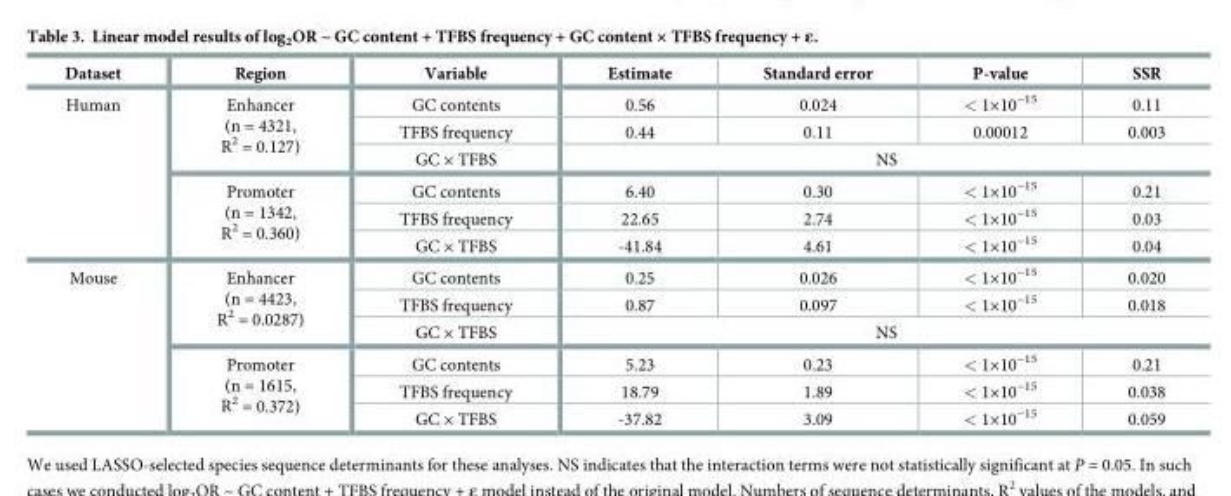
<table><thead><tr><td>Dataset</td><td>Region</td><td>Variable</td><td>Estimate</td><td>Standard error</td><td>P-value</td><td>SSR</td></tr></thead><tbody><tr><td rowspan="6">Human</td><td rowspan="3">Enhancer (n = 4321, R<sup>2</sup> = 0.127)</td><td>GC contents</td><td>0.56</td><td>0.024</td><td>&lt; 1×10<sup>−15</sup></td><td>0.11</td></tr><tr><td>TFBS frequency</td><td>0.44</td><td>0.11</td><td>0.00012</td><td>0.003</td></tr><tr><td>GC × TFBS</td><td colspan="4">NS</td></tr><tr><td rowspan="3">Promoter (n = 1342, R<sup>2</sup> = 0.360)</td><td>GC contents</td><td>6.40</td><td>0.30</td><td>&lt; 1×10<sup>−15</sup></td><td>0.21</td></tr><tr><td>TFBS frequency</td><td>22.65</td><td>2.74</td><td>&lt; 1×10<sup>−15</sup></td><td>0.03</td></tr><tr><td>GC × TFBS</td><td>-41.84</td><td>4.61</td><td>&lt; 1×10<sup>−15</sup></td><td>0.04</td></tr><tr><td rowspan="6">Mouse</td><td rowspan="3">Enhancer (n = 4423, R<sup>2</sup> = 0.0287)</td><td>GC contents</td><td>0.25</td><td>0.026</td><td>&lt; 1×10<sup>−15</sup></td><td>0.020</td></tr><tr><td>TFBS frequency</td><td>0.87</td><td>0.097</td><td>&lt; 1×10<sup>−15</sup></td><td>0.018</td></tr><tr><td>GC × TFBS</td><td colspan="4">NS</td></tr><tr><td rowspan="3">Promoter (n = 1615, R<sup>2</sup> = 0.372)</td><td>GC contents</td><td>5.23</td><td>0.23</td><td>&lt; 1×10<sup>−15</sup></td><td>0.21</td></tr><tr><td>TFBS frequency</td><td>18.79</td><td>1.89</td><td>&lt; 1×10<sup>−15</sup></td><td>0.038</td></tr><tr><td>GC × TFBS</td><td>-37.82</td><td>3.09</td><td>&lt; 1×10<sup>−15</sup></td><td>0.059</td></tr></tbody></table>